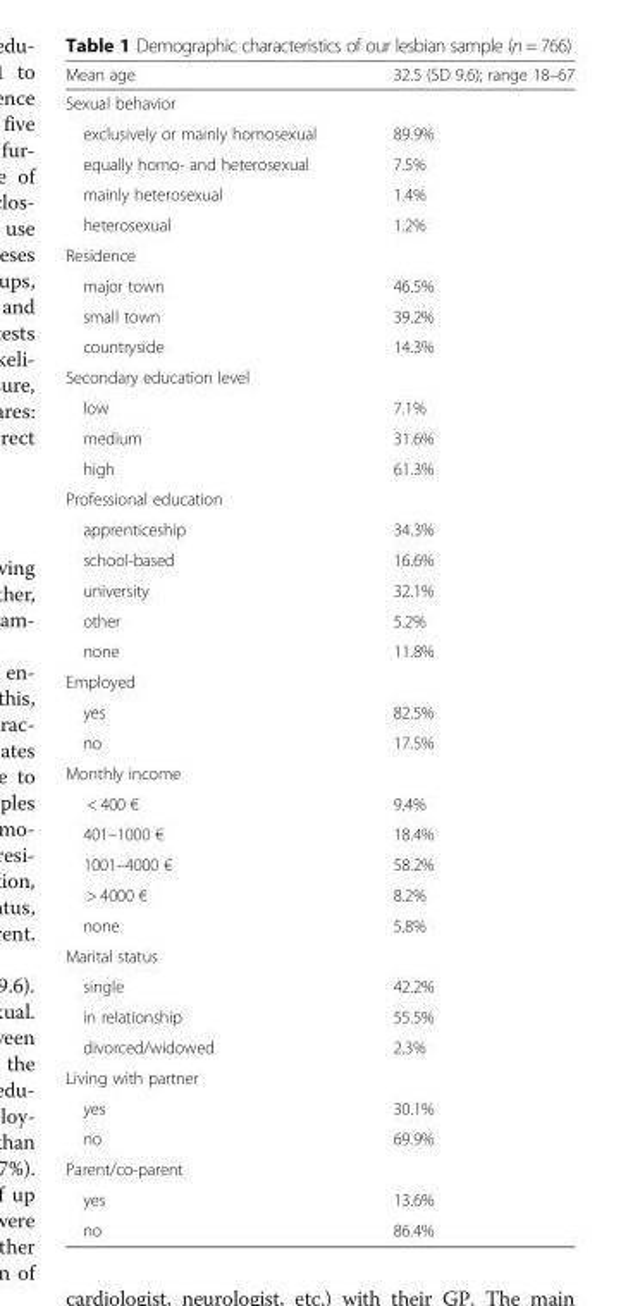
<table><thead><tr><td>Mean age</td><td>32.5 (SD 9.6); range 18–67</td></tr></thead><tbody><tr><td colspan="2">Sexual behavior</td></tr><tr><td>exclusively or mainly homosexual</td><td>89.9%</td></tr><tr><td>equally homo- and heterosexual</td><td>7.5%</td></tr><tr><td>mainly heterosexual</td><td>1.4%</td></tr><tr><td>heterosexual</td><td>1.2%</td></tr><tr><td colspan="2">Residence</td></tr><tr><td>major town</td><td>46.5%</td></tr><tr><td>small town</td><td>39.2%</td></tr><tr><td>countryside</td><td>14.3%</td></tr><tr><td colspan="2">Secondary education level</td></tr><tr><td>low</td><td>7.1%</td></tr><tr><td>medium</td><td>31.6%</td></tr><tr><td>high</td><td>61.3%</td></tr><tr><td colspan="2">Professional education</td></tr><tr><td>apprenticeship</td><td>34.3%</td></tr><tr><td>school-based</td><td>16.6%</td></tr><tr><td>university</td><td>32.1%</td></tr><tr><td>other</td><td>5.2%</td></tr><tr><td>none</td><td>11.8%</td></tr><tr><td colspan="2">Employed</td></tr><tr><td>yes</td><td>82.5%</td></tr><tr><td>no</td><td>17.5%</td></tr><tr><td colspan="2">Monthly income</td></tr><tr><td>&lt; 400 €</td><td>9.4%</td></tr><tr><td>401–1000 €</td><td>18.4%</td></tr><tr><td>1001–4000 €</td><td>58.2%</td></tr><tr><td>&gt; 4000 €</td><td>8.2%</td></tr><tr><td>none</td><td>5.8%</td></tr><tr><td colspan="2">Marital status</td></tr><tr><td>single</td><td>42.2%</td></tr><tr><td>in relationship</td><td>55.5%</td></tr><tr><td>divorced/widowed</td><td>2.3%</td></tr><tr><td colspan="2">Living with partner</td></tr><tr><td>yes</td><td>30.1%</td></tr><tr><td>no</td><td>69.9%</td></tr><tr><td colspan="2">Parent/co-parent</td></tr><tr><td>yes</td><td>13.6%</td></tr><tr><td>no</td><td>86.4%</td></tr></tbody></table>